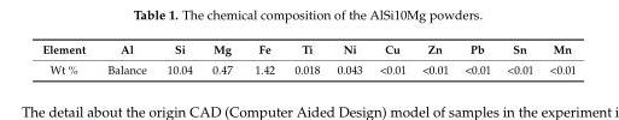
<table><thead><tr><td>Element</td><td>Al</td><td>Si</td><td>Mg</td><td>Fe</td><td>Ti</td><td>Ni</td><td>Cu</td><td>Zn</td><td>Pb</td><td>Sn</td><td>Mn</td></tr></thead><tbody><tr><td>Wt %</td><td>Balance</td><td>10.04</td><td>0.47</td><td>1.42</td><td>0.018</td><td>0.043</td><td>&lt;0.01</td><td>&lt;0.01</td><td>&lt;0.01</td><td>&lt;0.01</td><td>&lt;0.01</td></tr></tbody></table>